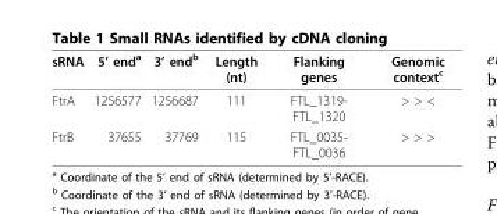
<table><thead><tr><td>sRNA</td><td>5’ end<sup>a</sup></td><td>3’ end<sup>b</sup></td><td>Length (nt)</td><td>Flanking genes</td><td>Genomic context<sup>c</sup></td></tr></thead><tbody><tr><td>FtrA</td><td>1256577</td><td>1256687</td><td>111</td><td>FTL_1319- FTL_1320</td><td>&gt; &gt; &lt;</td></tr><tr><td>FtrB</td><td>37655</td><td>37769</td><td>115</td><td>FTL_0035- FTL_0036</td><td>&gt; &gt; &gt;</td></tr></tbody></table>